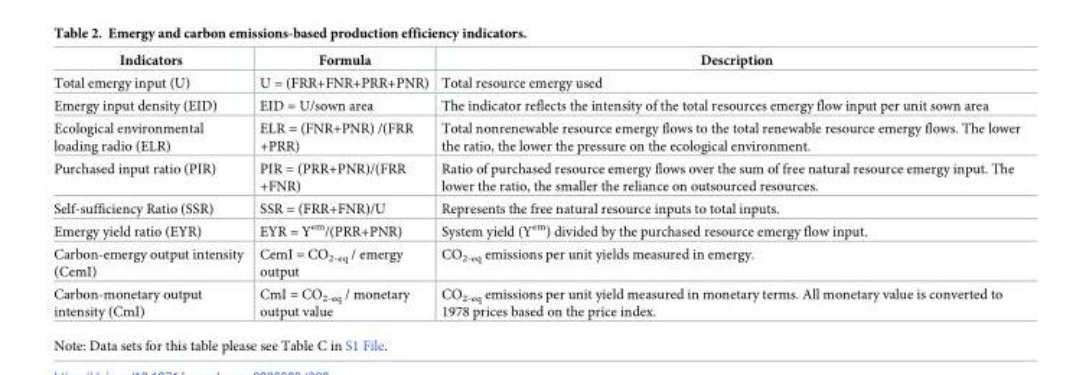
<table><thead><tr><td>Indicators</td><td>Formula</td><td>Description</td></tr></thead><tbody><tr><td>Total emergy input (U)</td><td>U = (FRR+FNR+PRR+PNR)</td><td>Total resource emergy used</td></tr><tr><td>Emergy input density (EID)</td><td>EID = U/sown area</td><td>The indicator reflects the intensity of the total resources emergy flow input per unit sown area</td></tr><tr><td>Ecological environmental loading radio (ELR)</td><td>ELR = (FNR+PNR) /(FRR +PRR)</td><td>Total nonrenewable resource emergy flows to the total renewable resource emergy flows. The lower the ratio, the lower the pressure on the ecological environment.</td></tr><tr><td>Purchased input ratio (PIR)</td><td>PIR = (PRR+PNR)/(FRR +FNR)</td><td>Ratio of purchased resource emergy flows over the sum of free natural resource emergy input. The lower the ratio, the smaller the reliance on outsourced resources.</td></tr><tr><td>Self-sufficiency Ratio (SSR)</td><td>SSR = (FRR+FNR)/U</td><td>Represents the free natural resource inputs to total inputs.</td></tr><tr><td>Emergy yield ratio (EYR)</td><td>EYR = Y<sup>em</sup>/(PRR+PNR)</td><td>System yield (Y<sup>em</sup>) divided by the purchased resource emergy flow input.</td></tr><tr><td>Carbon-emergy output intensity (CemI)</td><td>CemI = CO<sub>2-eq</sub> / emergy output</td><td>CO<sub>2-eq</sub> emissions per unit yields measured in emergy.</td></tr><tr><td>Carbon-monetary output intensity (CmI)</td><td>CmI = CO<sub>2-eq</sub> / monetary output value</td><td>CO<sub>2-eq</sub> emissions per unit yield measured in monetary terms. All monetary value is converted to 1978 prices based on the price index.</td></tr></tbody></table>